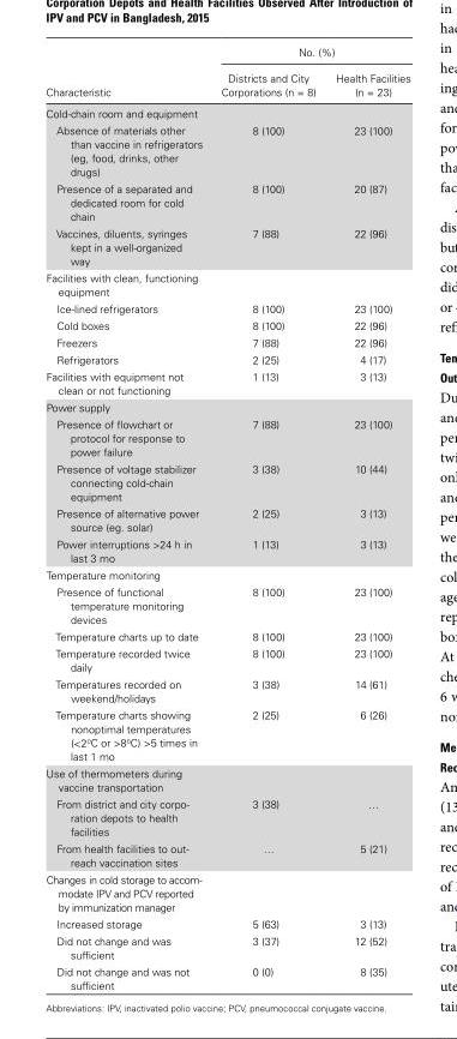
<table><thead><tr><td rowspan="2">Characteristic</td><td colspan="2">No. (%)</td></tr><tr><td>Districts and City Corporations (n = 8)</td><td>Health Facilities (n = 23)</td></tr></thead><tbody><tr><td colspan="3">Cold-chain room and equipment</td></tr><tr><td>Absence of materials other than vaccine in refrigerators (eg, food, drinks, other drugs)</td><td>8 (100)</td><td>23 (100)</td></tr><tr><td>Presence of a separated and dedicated room for cold chain</td><td>8 (100)</td><td>20 (87)</td></tr><tr><td>Vaccines, diluents, syringes kept in a well-organized way</td><td>7 (88)</td><td>22 (96)</td></tr><tr><td colspan="3">Facilities with clean, functioning equipment</td></tr><tr><td>Ice-lined refrigerators</td><td>8 (100)</td><td>23 (100)</td></tr><tr><td>Cold boxes</td><td>8 (100)</td><td>22 (96)</td></tr><tr><td>Freezers</td><td>7 (88)</td><td>22 (96)</td></tr><tr><td>Refrigerators</td><td>2 (25)</td><td>4 (17)</td></tr><tr><td>Facilities with equipment not clean or not functioning</td><td>1 (13)</td><td>3 (13)</td></tr><tr><td colspan="3">Power supply</td></tr><tr><td>Presence of flowchart or protocol for response to power failure</td><td>7 (88)</td><td>23 (100)</td></tr><tr><td>Presence of voltage stabilizer connecting cold-chain equipment</td><td>3 (38)</td><td>10 (44)</td></tr><tr><td>Presence of alternative power source (eg. solar)</td><td>2 (25)</td><td>3 (13)</td></tr><tr><td>Power interruptions &gt;24 h in last 3 mo</td><td>1 (13)</td><td>3 (13)</td></tr><tr><td colspan="3">Temperature monitoring</td></tr><tr><td>Presence of functional temperature monitoring devices</td><td>8 (100)</td><td>23 (100)</td></tr><tr><td>Temperature charts up to date</td><td>8 (100)</td><td>23 (100)</td></tr><tr><td>Temperature recorded twice daily</td><td>8 (100)</td><td>23 (100)</td></tr><tr><td>Temperatures recorded on weekend/holidays</td><td>3 (38)</td><td>14 (61)</td></tr><tr><td>Temperature charts showing nonoptimal temperatures (&lt;2<sup>o</sup>C or &gt;8<sup>o</sup>C) &gt;5 times in last 1 mo</td><td>2 (25)</td><td>6 (26)</td></tr><tr><td colspan="3">Use of thermometers during vaccine transportation</td></tr><tr><td>From district and city corpo- ration depots to health facilities</td><td>3 (38)</td><td>…</td></tr><tr><td>From health facilities to out- reach vaccination sites</td><td>…</td><td>5 (21)</td></tr><tr><td colspan="3">Changes in cold storage to accom- modate IPV and PCV reported by immunization manager</td></tr><tr><td>Increased storage</td><td>5 (63)</td><td>3 (13)</td></tr><tr><td>Did not change and was sufficient</td><td>3 (37)</td><td>12 (52)</td></tr><tr><td>Did not change and was not sufficient</td><td>0 (0)</td><td>8 (35)</td></tr></tbody></table>